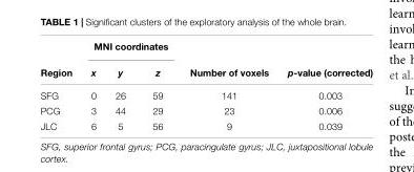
<table><thead><tr><td rowspan="2">Region</td><td colspan="3">MNI coordinates</td><td rowspan="2">Number of voxels</td><td rowspan="2">p-value (corrected)</td></tr><tr><td>x</td><td>y</td><td>z</td></tr></thead><tbody><tr><td>SFG</td><td>0</td><td>26</td><td>59</td><td>141</td><td>0.003</td></tr><tr><td>PCG</td><td>3</td><td>44</td><td>29</td><td>23</td><td>0.006</td></tr><tr><td>JLC</td><td>6</td><td>5</td><td>56</td><td>9</td><td>0.039</td></tr></tbody></table>